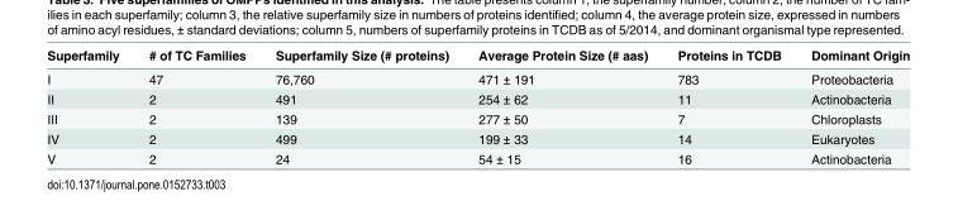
<table><thead><tr><td>Superfamily</td><td># of TC Families</td><td>Superfamily Size (# proteins)</td><td>Average Protein Size (# aas)</td><td>Proteins in TCDB</td><td>Dominant Origin</td></tr></thead><tbody><tr><td>I</td><td>47</td><td>76,760</td><td>471 ± 191</td><td>783</td><td>Proteobacteria</td></tr><tr><td>II</td><td>2</td><td>491</td><td>254 ± 62</td><td>11</td><td>Actinobacteria</td></tr><tr><td>III</td><td>2</td><td>139</td><td>277 ± 50</td><td>7</td><td>Chloroplasts</td></tr><tr><td>IV</td><td>2</td><td>499</td><td>199 ± 33</td><td>14</td><td>Eukaryotes</td></tr><tr><td>V</td><td>2</td><td>24</td><td>54 ± 15</td><td>16</td><td>Actinobacteria</td></tr></tbody></table>